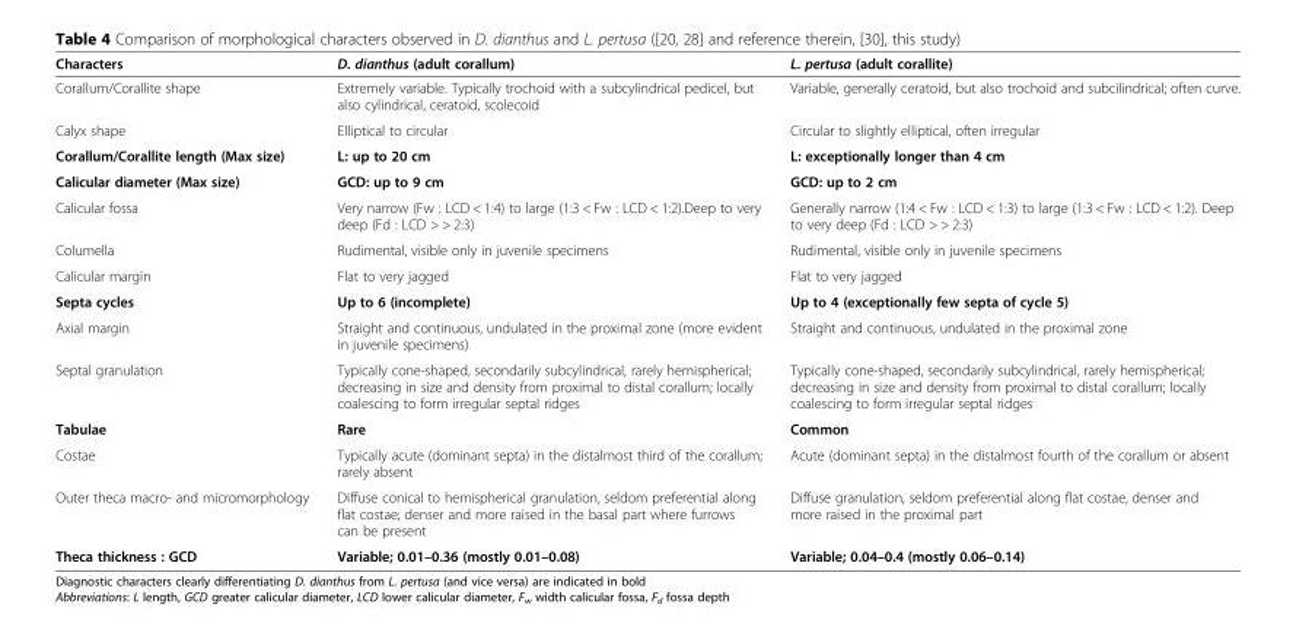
<table><thead><tr><td>Characters</td><td>D. dianthus (adult corallum)</td><td>L. pertusa (adult corallite)</td></tr></thead><tbody><tr><td>Corallum/Corallite shape</td><td>Extremely variable. Typically trochoid with a subcylindrical pedicel, but also cylindrical, ceratoid, scolecoid</td><td>Variable, generally ceratoid, but also trochoid and subcilindrical; often curve.</td></tr><tr><td>Calyx shape</td><td>Elliptical to circular</td><td>Circular to slightly elliptical, often irregular</td></tr><tr><td>Corallum/Corallite length (Max size)</td><td>L: up to 20 cm</td><td>L: exceptionally longer than 4 cm</td></tr><tr><td>Calicular diameter (Max size)</td><td>GCD: up to 9 cm</td><td>GCD: up to 2 cm</td></tr><tr><td>Calicular fossa</td><td>Very narrow (Fw : LCD &lt; 1:4) to large (1:3 &lt; Fw : LCD &lt; 1:2).Deep to very deep (Fd : LCD &gt; &gt; 2:3)</td><td>Generally narrow (1:4 &lt; Fw : LCD &lt; 1:3) to large (1:3 &lt; Fw : LCD &lt; 1:2). Deep to very deep (Fd : LCD &gt; &gt; 2:3)</td></tr><tr><td>Columella</td><td>Rudimental, visible only in juvenile specimens</td><td>Rudimental, visible only in juvenile specimens</td></tr><tr><td>Calicular margin</td><td>Flat to very jagged</td><td>Flat to very jagged</td></tr><tr><td>Septa cycles</td><td>Up to 6 (incomplete)</td><td>Up to 4 (exceptionally few septa of cycle 5)</td></tr><tr><td>Axial margin</td><td>Straight and continuous, undulated in the proximal zone (more evident in juvenile specimens)</td><td>Straight and continuous, undulated in the proximal zone</td></tr><tr><td>Septal granulation</td><td>Typically cone-shaped, secondarily subcylindrical, rarely hemispherical; decreasing in size and density from proximal to distal corallum; locally coalescing to form irregular septal ridges</td><td>Typically cone-shaped, secondarily subcylindrical, rarely hemispherical; decreasing in size and density from proximal to distal corallum; locally coalescing to form irregular septal ridges</td></tr><tr><td>Tabulae</td><td>Rare</td><td>Common</td></tr><tr><td>Costae</td><td>Typically acute (dominant septa) in the distalmost third of the corallum; rarely absent</td><td>Acute (dominant septa) in the distalmost fourth of the corallum or absent</td></tr><tr><td>Outer theca macro- and micromorphology</td><td>Diffuse conical to hemispherical granulation, seldom preferential along flat costae; denser and more raised in the basal part where furrows can be present</td><td>Diffuse granulation, seldom preferential along flat costae, denser and more raised in the proximal part</td></tr><tr><td>Theca thickness : GCD</td><td>Variable; 0.01–0.36 (mostly 0.01–0.08)</td><td>Variable; 0.04–0.4 (mostly 0.06–0.14)</td></tr></tbody></table>